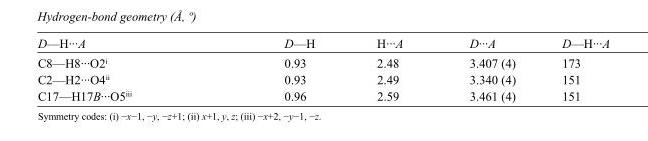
<table><tbody><tr><td>D—H···A</td><td>D—H</td><td>H···A</td><td>D···A</td><td>D—H···A</td></tr><tr><td>C8—H8···O2<sup>i</sup></td><td>0.93</td><td>2.48</td><td>3.407 (4)</td><td>173</td></tr><tr><td>C2—H2···O4<sup>ii</sup></td><td>0.93</td><td>2.49</td><td>3.340 (4)</td><td>151</td></tr><tr><td>C17—H17B···O5<sup>iii</sup></td><td>0.96</td><td>2.59</td><td>3.461 (4)</td><td>151</td></tr></tbody></table>